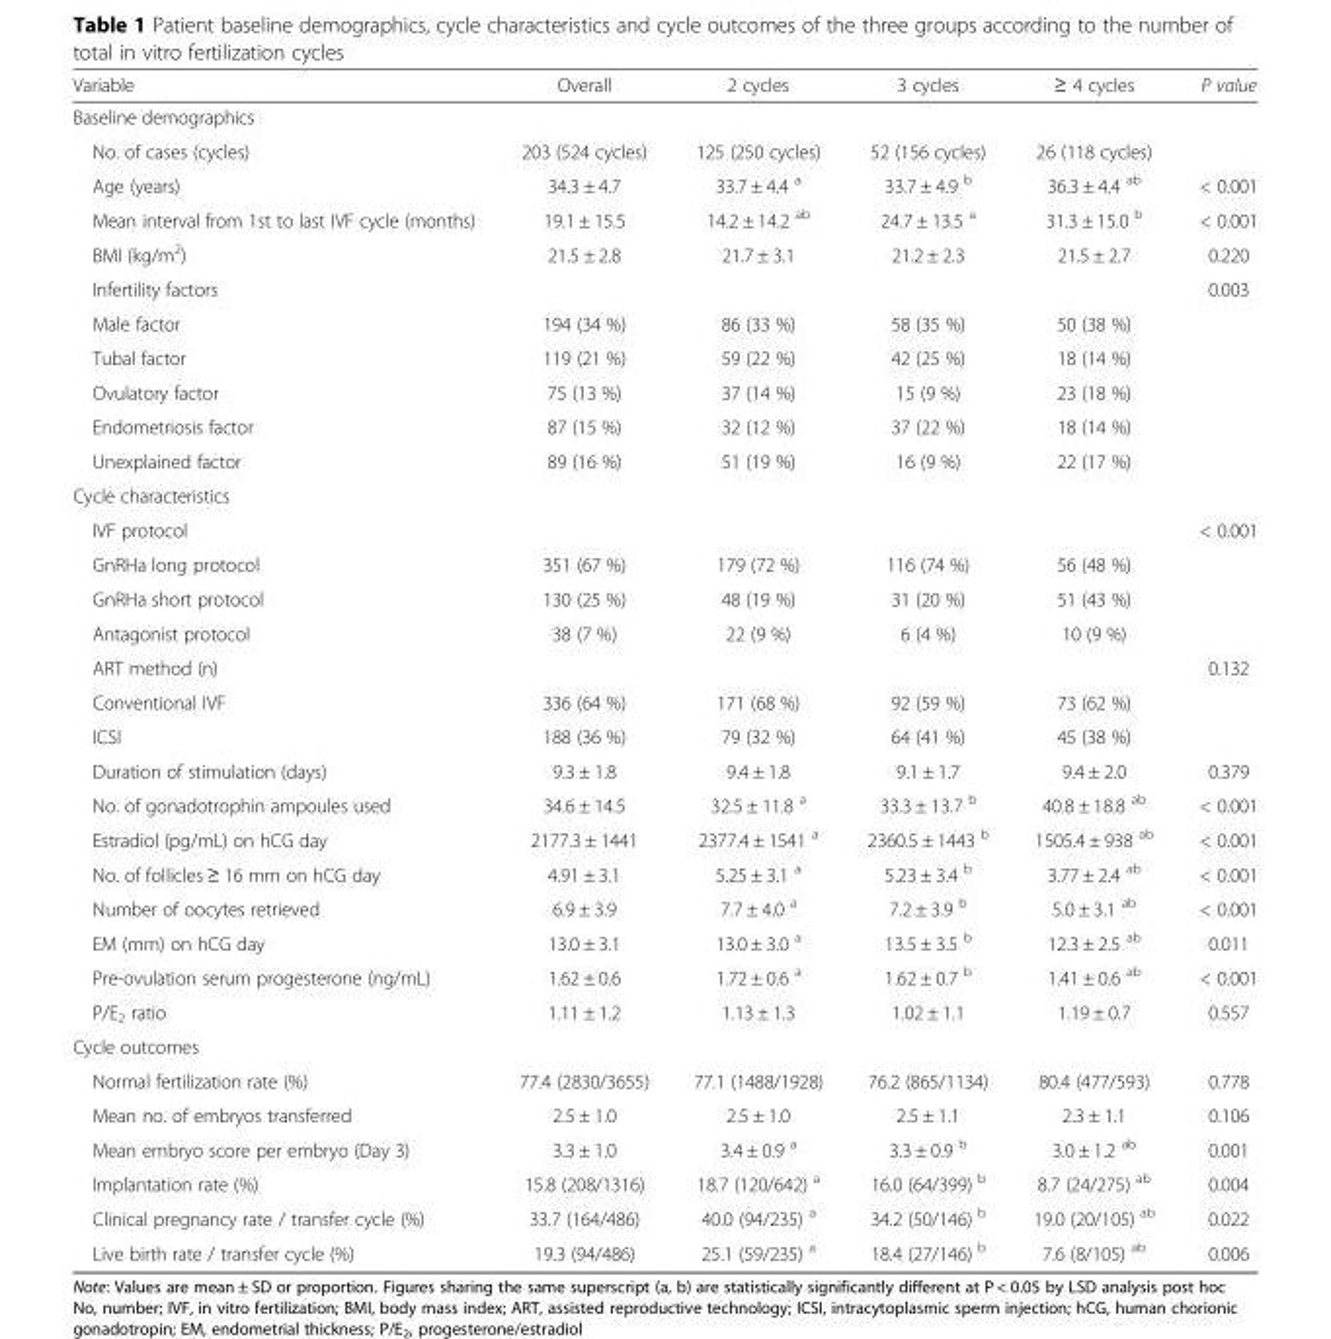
<table><thead><tr><td>Variable</td><td>Overall</td><td>2 cycles</td><td>3 cycles</td><td>≥ 4 cycles</td><td>P value</td></tr></thead><tbody><tr><td colspan="6">Baseline demographics</td></tr><tr><td>No. of cases (cycles)</td><td>203 (524 cycles)</td><td>125 (250 cycles)</td><td>52 (156 cycles)</td><td>26 (118 cycles)</td><td></td></tr><tr><td>Age (years)</td><td>34.3 ± 4.7</td><td>33.7 ± 4.4 <sup>a</sup></td><td>33.7 ± 4.9 <sup>b</sup></td><td>36.3 ± 4.4 <sup>ab</sup></td><td>&lt; 0.001</td></tr><tr><td>Mean interval from 1st to last IVF cycle (months)</td><td>19.1 ± 15.5</td><td>14.2 ± 14.2 <sup>ab</sup></td><td>24.7 ± 13.5 <sup>a</sup></td><td>31.3 ± 15.0 <sup>b</sup></td><td>&lt; 0.001</td></tr><tr><td>BMI (kg/m<sup>2</sup>)</td><td>21.5 ± 2.8</td><td>21.7 ± 3.1</td><td>21.2 ± 2.3</td><td>21.5 ± 2.7</td><td>0.220</td></tr><tr><td colspan="5">Infertility factors</td><td rowspan="6">0.003</td></tr><tr><td>Male factor</td><td>194 (34 %)</td><td>86 (33 %)</td><td>58 (35 %)</td><td>50 (38 %)</td></tr><tr><td>Tubal factor</td><td>119 (21 %)</td><td>59 (22 %)</td><td>42 (25 %)</td><td>18 (14 %)</td></tr><tr><td>Ovulatory factor</td><td>75 (13 %)</td><td>37 (14 %)</td><td>15 (9 %)</td><td>23 (18 %)</td></tr><tr><td>Endometriosis factor</td><td>87 (15 %)</td><td>32 (12 %)</td><td>37 (22 %)</td><td>18 (14 %)</td></tr><tr><td>Unexplained factor</td><td>89 (16 %)</td><td>51 (19 %)</td><td>16 (9 %)</td><td>22 (17 %)</td></tr><tr><td colspan="6">Cycle characteristics</td></tr><tr><td colspan="5">IVF protocol</td><td rowspan="4">&lt; 0.001</td></tr><tr><td>GnRHa long protocol</td><td>351 (67 %)</td><td>179 (72 %)</td><td>116 (74 %)</td><td>56 (48 %)</td></tr><tr><td>GnRHa short protocol</td><td>130 (25 %)</td><td>48 (19 %)</td><td>31 (20 %)</td><td>51 (43 %)</td></tr><tr><td>Antagonist protocol</td><td>38 (7 %)</td><td>22 (9 %)</td><td>6 (4 %)</td><td>10 (9 %)</td></tr><tr><td colspan="5">ART method (n)</td><td rowspan="3">0.132</td></tr><tr><td>Conventional IVF</td><td>336 (64 %)</td><td>171 (68 %)</td><td>92 (59 %)</td><td>73 (62 %)</td></tr><tr><td>ICSI</td><td>188 (36 %)</td><td>79 (32 %)</td><td>64 (41 %)</td><td>45 (38 %)</td></tr><tr><td>Duration of stimulation (days)</td><td>9.3 ± 1.8</td><td>9.4 ± 1.8</td><td>9.1 ± 1.7</td><td>9.4 ± 2.0</td><td>0.379</td></tr><tr><td>No. of gonadotrophin ampoules used</td><td>34.6 ± 14.5</td><td>32.5 ± 11.8 <sup>a</sup></td><td>33.3 ± 13.7 <sup>b</sup></td><td>40.8 ± 18.8 <sup>ab</sup></td><td>&lt; 0.001</td></tr><tr><td>Estradiol (pg/mL) on hCG day</td><td>2177.3 ± 1441</td><td>2377.4 ± 1541 <sup>a</sup></td><td>2360.5 ± 1443 <sup>b</sup></td><td>1505.4 ± 938 <sup>ab</sup></td><td>&lt; 0.001</td></tr><tr><td>No. of follicles ≥ 16 mm on hCG day</td><td>4.91 ± 3.1</td><td>5.25 ± 3.1 <sup>a</sup></td><td>5.23 ± 3.4 <sup>b</sup></td><td>3.77 ± 2.4 <sup>ab</sup></td><td>&lt; 0.001</td></tr><tr><td>Number of oocytes retrieved</td><td>6.9 ± 3.9</td><td>7.7 ± 4.0 <sup>a</sup></td><td>7.2 ± 3.9 <sup>b</sup></td><td>5.0 ± 3.1 <sup>ab</sup></td><td>&lt; 0.001</td></tr><tr><td>EM (mm) on hCG day</td><td>13.0 ± 3.1</td><td>13.0 ± 3.0 <sup>a</sup></td><td>13.5 ± 3.5 <sup>b</sup></td><td>12.3 ± 2.5 <sup>ab</sup></td><td>0.011</td></tr><tr><td>Pre-ovulation serum progesterone (ng/mL)</td><td>1.62 ± 0.6</td><td>1.72 ± 0.6 <sup>a</sup></td><td>1.62 ± 0.7 <sup>b</sup></td><td>1.41 ± 0.6 <sup>ab</sup></td><td>&lt; 0.001</td></tr><tr><td>P/E<sub>2</sub> ratio</td><td>1.11 ± 1.2</td><td>1.13 ± 1.3</td><td>1.02 ± 1.1</td><td>1.19 ± 0.7</td><td>0.557</td></tr><tr><td colspan="6">Cycle outcomes</td></tr><tr><td>Normal fertilization rate (%)</td><td>77.4 (2830/3655)</td><td>77.1 (1488/1928)</td><td>76.2 (865/1134)</td><td>80.4 (477/593)</td><td>0.778</td></tr><tr><td>Mean no. of embryos transferred</td><td>2.5 ± 1.0</td><td>2.5 ± 1.0</td><td>2.5 ± 1.1</td><td>2.3 ± 1.1</td><td>0.106</td></tr><tr><td>Mean embryo score per embryo (Day 3)</td><td>3.3 ± 1.0</td><td>3.4 ± 0.9 <sup>a</sup></td><td>3.3 ± 0.9 <sup>b</sup></td><td>3.0 ± 1.2 <sup>ab</sup></td><td>0.001</td></tr><tr><td>Implantation rate (%)</td><td>15.8 (208/1316)</td><td>18.7 (120/642) <sup>a</sup></td><td>16.0 (64/399) <sup>b</sup></td><td>8.7 (24/275) <sup>ab</sup></td><td>0.004</td></tr><tr><td>Clinical pregnancy rate / transfer cycle (%)</td><td>33.7 (164/486)</td><td>40.0 (94/235) <sup>a</sup></td><td>34.2 (50/146) <sup>b</sup></td><td>19.0 (20/105) <sup>ab</sup></td><td>0.022</td></tr><tr><td>Live birth rate / transfer cycle (%)</td><td>19.3 (94/486)</td><td>25.1 (59/235) <sup>a</sup></td><td>18.4 (27/146) <sup>b</sup></td><td>7.6 (8/105) <sup>ab</sup></td><td>0.006</td></tr></tbody></table>